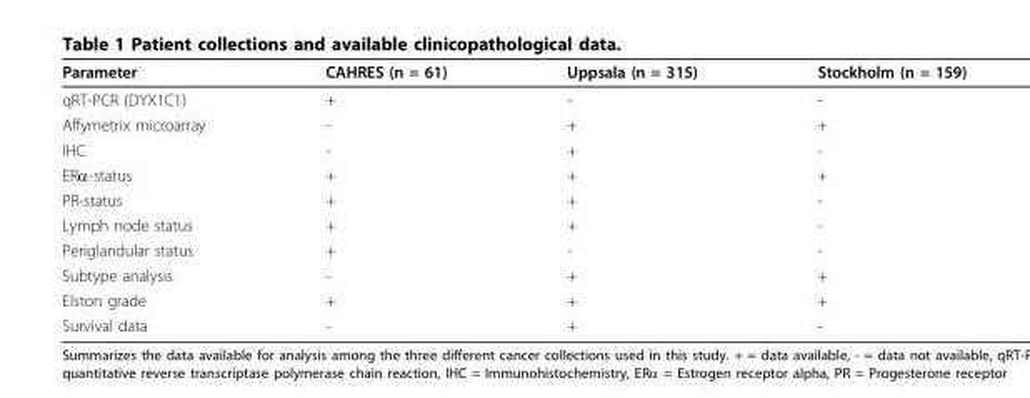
<table><thead><tr><td>Parameter</td><td>CAHRES (n = 61)</td><td>Uppsala (n = 315)</td><td>Stockholm (n = 159)</td></tr></thead><tbody><tr><td>qRT-PCR (DYX1C1)</td><td>+</td><td>-</td><td>-</td></tr><tr><td>Affymetrix microarray</td><td>-</td><td>+</td><td>+</td></tr><tr><td>IHC</td><td>-</td><td>+</td><td>-</td></tr><tr><td>ERα-status</td><td>+</td><td>+</td><td>+</td></tr><tr><td>PR-status</td><td>+</td><td>+</td><td>-</td></tr><tr><td>Lymph node status</td><td>+</td><td>+</td><td>-</td></tr><tr><td>Periglandular status</td><td>+</td><td>-</td><td>-</td></tr><tr><td>Subtype analysis</td><td>-</td><td>+</td><td>+</td></tr><tr><td>Elston grade</td><td>+</td><td>+</td><td>+</td></tr><tr><td>Survival data</td><td>-</td><td>+</td><td>-</td></tr></tbody></table>